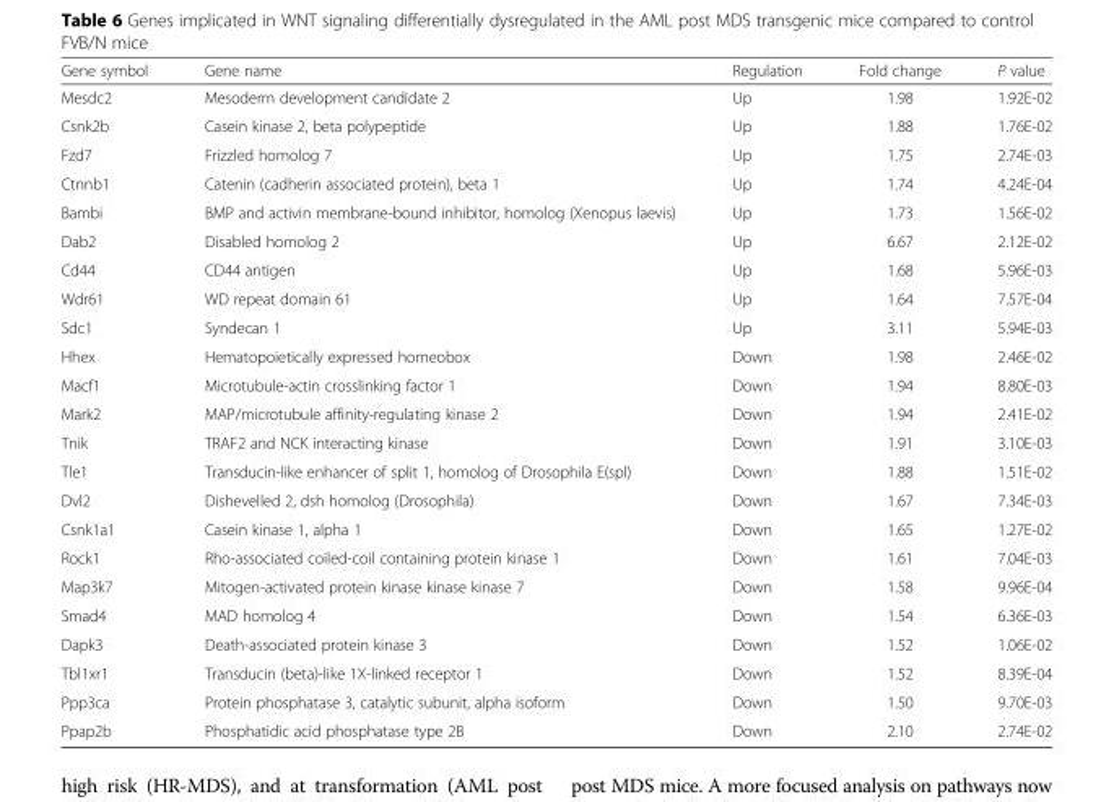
<table><thead><tr><td>Gene symbol</td><td>Gene name</td><td>Regulation</td><td>Fold change</td><td>P value</td></tr></thead><tbody><tr><td>Mesdc2</td><td>Mesoderm development candidate 2</td><td>Up</td><td>1.98</td><td>1.92E-02</td></tr><tr><td>Csnk2b</td><td>Casein kinase 2, beta polypeptide</td><td>Up</td><td>1.88</td><td>1.76E-02</td></tr><tr><td>Fzd7</td><td>Frizzled homolog 7</td><td>Up</td><td>1.75</td><td>2.74E-03</td></tr><tr><td>Ctnnb1</td><td>Catenin (cadherin associated protein), beta 1</td><td>Up</td><td>1.74</td><td>4.24E-04</td></tr><tr><td>Bambi</td><td>BMP and activin membrane-bound inhibitor, homolog (Xenopus laevis)</td><td>Up</td><td>1.73</td><td>1.56E-02</td></tr><tr><td>Dab2</td><td>Disabled homolog 2</td><td>Up</td><td>6.67</td><td>2.12E-02</td></tr><tr><td>Cd44</td><td>CD44 antigen</td><td>Up</td><td>1.68</td><td>5.96E-03</td></tr><tr><td>Wdr61</td><td>WD repeat domain 61</td><td>Up</td><td>1.64</td><td>7.57E-04</td></tr><tr><td>Sdc1</td><td>Syndecan 1</td><td>Up</td><td>3.11</td><td>5.94E-03</td></tr><tr><td>Hhex</td><td>Hematopoietically expressed homeobox</td><td>Down</td><td>1.98</td><td>2.46E-02</td></tr><tr><td>Macf1</td><td>Microtubule-actin crosslinking factor 1</td><td>Down</td><td>1.94</td><td>8.80E-03</td></tr><tr><td>Mark2</td><td>MAP/microtubule affinity-regulating kinase 2</td><td>Down</td><td>1.94</td><td>2.41E-02</td></tr><tr><td>Tnik</td><td>TRAF2 and NCK interacting kinase</td><td>Down</td><td>1.91</td><td>3.10E-03</td></tr><tr><td>Tle1</td><td>Transducin-like enhancer of split 1, homolog of Drosophila E(spl)</td><td>Down</td><td>1.88</td><td>1.51E-02</td></tr><tr><td>Dvl2</td><td>Dishevelled 2, dsh homolog (Drosophila)</td><td>Down</td><td>1.67</td><td>7.34E-03</td></tr><tr><td>Csnk1a1</td><td>Casein kinase 1, alpha 1</td><td>Down</td><td>1.65</td><td>1.27E-02</td></tr><tr><td>Rock1</td><td>Rho-associated coiled-coil containing protein kinase 1</td><td>Down</td><td>1.61</td><td>7.04E-03</td></tr><tr><td>Map3k7</td><td>Mitogen-activated protein kinase kinase kinase 7</td><td>Down</td><td>1.58</td><td>9.96E-04</td></tr><tr><td>Smad4</td><td>MAD homolog 4</td><td>Down</td><td>1.54</td><td>6.36E-03</td></tr><tr><td>Dapk3</td><td>Death-associated protein kinase 3</td><td>Down</td><td>1.52</td><td>1.06E-02</td></tr><tr><td>Tbl1xr1</td><td>Transducin (beta)-like 1X-linked receptor 1</td><td>Down</td><td>1.52</td><td>8.39E-04</td></tr><tr><td>Ppp3ca</td><td>Protein phosphatase 3, catalytic subunit, alpha isoform</td><td>Down</td><td>1.50</td><td>9.70E-03</td></tr><tr><td>Ppap2b</td><td>Phosphatidic acid phosphatase type 2B</td><td>Down</td><td>2.10</td><td>2.74E-02</td></tr></tbody></table>